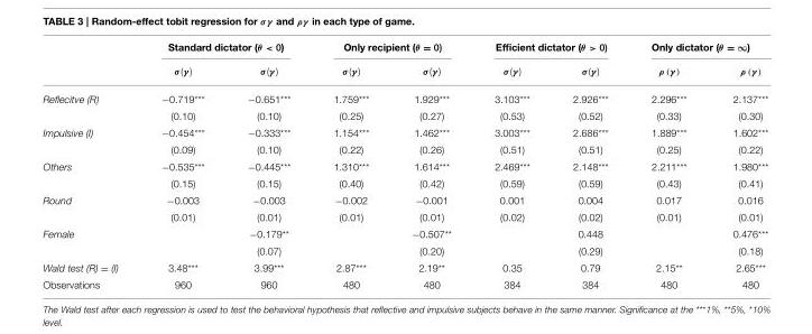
<table><thead><tr><td rowspan="2"></td><td colspan="2">Standard dictator (θ &lt; 0)</td><td colspan="2">Only recipient (θ = 0)</td><td colspan="2">Efficient dictator (θ &gt; 0)</td><td colspan="2">Only dictator (θ = ∞)</td></tr><tr><td>σ(γ )</td><td>σ(γ )</td><td>σ(γ )</td><td>σ(γ )</td><td>σ(γ )</td><td>σ(γ )</td><td>ρ (γ )</td><td>ρ (γ )</td></tr></thead><tbody><tr><td rowspan="2">Reflecitve (R)</td><td>−0.719***</td><td>−0.651***</td><td>1.759***</td><td>1.929***</td><td>3.103***</td><td>2.926***</td><td>2.296***</td><td>2.137***</td></tr><tr><td>(0.10)</td><td>(0.10)</td><td>(0.25)</td><td>(0.27)</td><td>(0.53)</td><td>(0.52)</td><td>(0.33)</td><td>(0.30)</td></tr><tr><td rowspan="2">Impulsive (I)</td><td>−0.454***</td><td>−0.333***</td><td>1.154***</td><td>1.462***</td><td>3.003***</td><td>2.686***</td><td>1.889***</td><td>1.602***</td></tr><tr><td>(0.09)</td><td>(0.10)</td><td>(0.22)</td><td>(0.26)</td><td>(0.51)</td><td>(0.51)</td><td>(0.25)</td><td>(0.22)</td></tr><tr><td rowspan="2">Others</td><td>−0.535***</td><td>−0.445***</td><td>1.310***</td><td>1.614***</td><td>2.469***</td><td>2.148***</td><td>2.211***</td><td>1.980***</td></tr><tr><td>(0.15)</td><td>(0.15)</td><td>(0.40)</td><td>(0.42)</td><td>(0.59)</td><td>(0.59)</td><td>(0.43)</td><td>(0.41)</td></tr><tr><td rowspan="2">Round</td><td>−0.003</td><td>−0.003</td><td>−0.002</td><td>−0.001</td><td>0.001</td><td>0.004</td><td>0.017</td><td>0.016</td></tr><tr><td>(0.01)</td><td>(0.01)</td><td>(0.01)</td><td>(0.01)</td><td>(0.02)</td><td>(0.02)</td><td>(0.01)</td><td>(0.01)</td></tr><tr><td rowspan="2">Female</td><td></td><td>−0.179**</td><td></td><td>−0.507**</td><td></td><td>0.448</td><td></td><td>0.476***</td></tr><tr><td></td><td>(0.07)</td><td></td><td>(0.20)</td><td></td><td>(0.29)</td><td></td><td>(0.18)</td></tr><tr><td>Wald test (R) = (I)</td><td>3.48***</td><td>3.99***</td><td>2.87***</td><td>2.19**</td><td>0.35</td><td>0.79</td><td>2.15**</td><td>2.65***</td></tr><tr><td>Observations</td><td>960</td><td>960</td><td>480</td><td>480</td><td>384</td><td>384</td><td>480</td><td>480</td></tr></tbody></table>